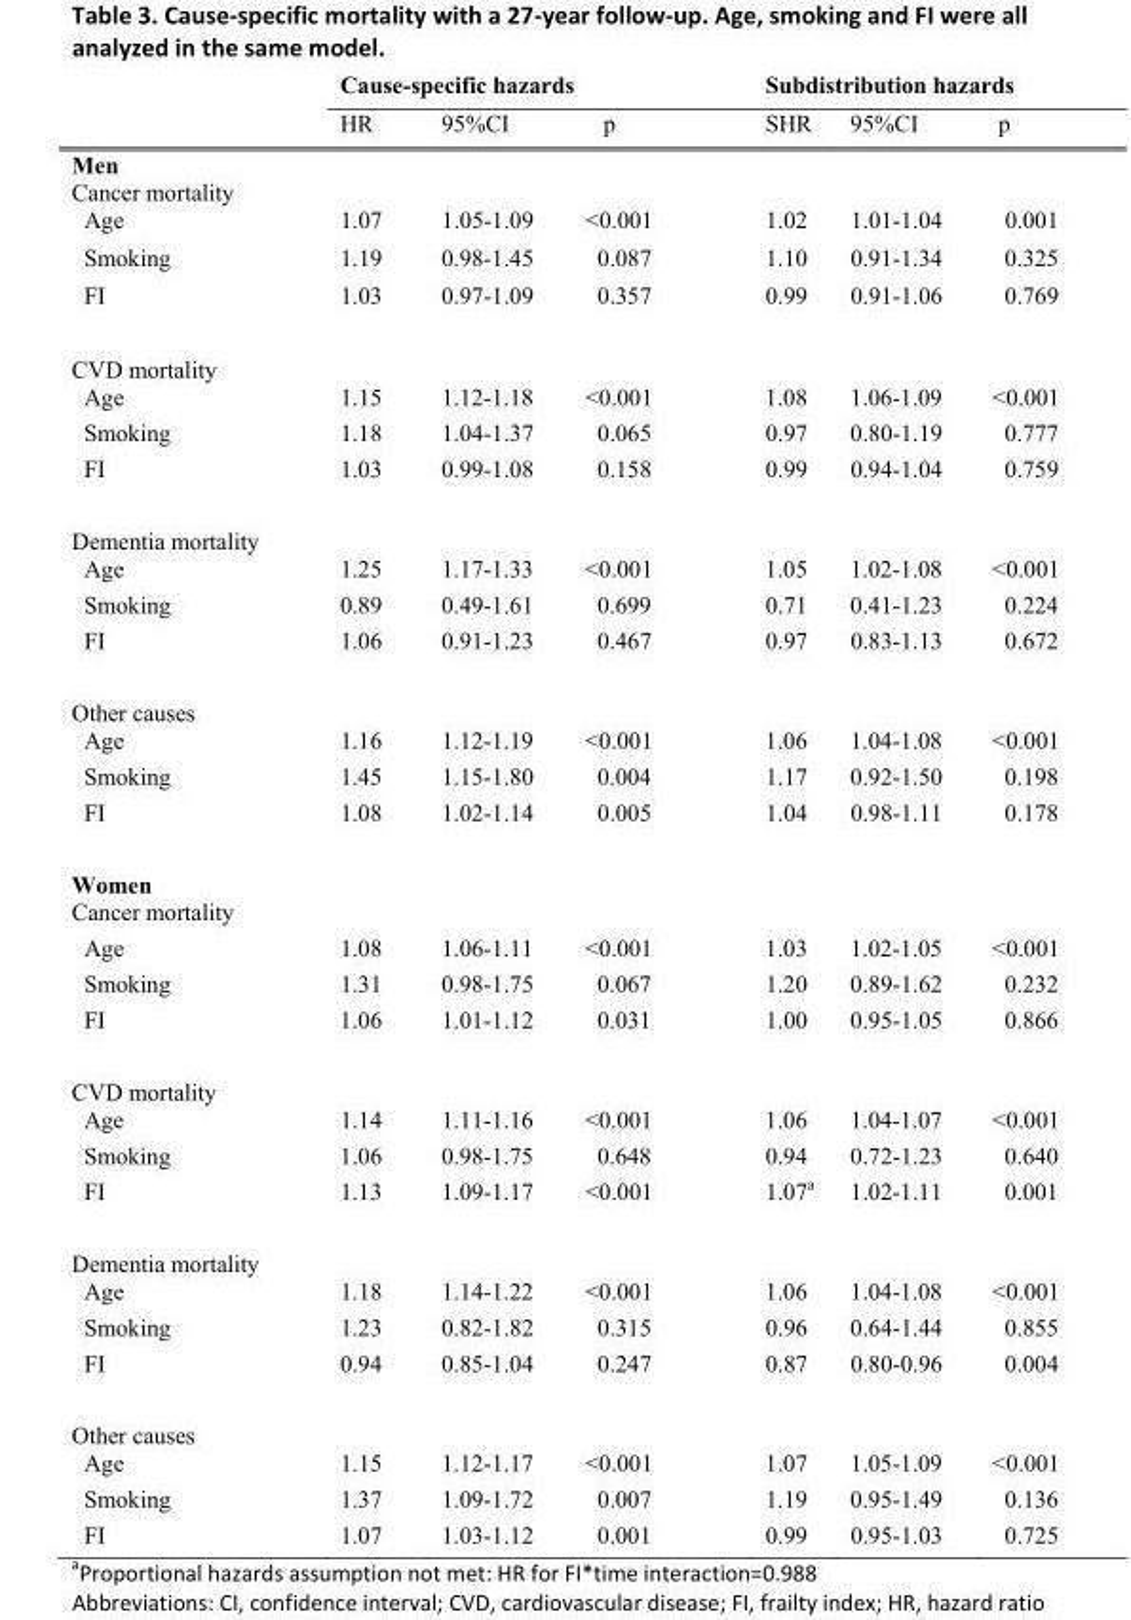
<table><thead><tr><td rowspan="2"></td><td colspan="3">Cause-specific hazards</td><td colspan="3">Subdistribution hazards</td></tr><tr><td>HR</td><td>95%CI</td><td>p</td><td>SHR</td><td>95%CI</td><td>p</td></tr></thead><tbody><tr><td colspan="7">Men</td></tr><tr><td colspan="7">Cancer mortality</td></tr><tr><td>Age</td><td>1.07</td><td>1.05-1.09</td><td>&lt;0.001</td><td>1.02</td><td>1.01-1.04</td><td>0.001</td></tr><tr><td>Smoking</td><td>1.19</td><td>0.98-1.45</td><td>0.087</td><td>1.10</td><td>0.91-1.34</td><td>0.325</td></tr><tr><td>FI</td><td>1.03</td><td>0.97-1.09</td><td>0.357</td><td>0.99</td><td>0.91-1.06</td><td>0.769</td></tr><tr><td colspan="7">CVD mortality</td></tr><tr><td>Age</td><td>1.15</td><td>1.12-1.18</td><td>&lt;0.001</td><td>1.08</td><td>1.06-1.09</td><td>&lt;0.001</td></tr><tr><td>Smoking</td><td>1.18</td><td>1.04-1.37</td><td>0.065</td><td>0.97</td><td>0.80-1.19</td><td>0.777</td></tr><tr><td>FI</td><td>1.03</td><td>0.99-1.08</td><td>0.158</td><td>0.99</td><td>0.94-1.04</td><td>0.759</td></tr><tr><td colspan="7">Dementia mortality</td></tr><tr><td>Age</td><td>1.25</td><td>1.17-1.33</td><td>&lt;0.001</td><td>1.05</td><td>1.02-1.08</td><td>&lt;0.001</td></tr><tr><td>Smoking</td><td>0.89</td><td>0.49-1.61</td><td>0.699</td><td>0.71</td><td>0.41-1.23</td><td>0.224</td></tr><tr><td>FI</td><td>1.06</td><td>0.91-1.23</td><td>0.467</td><td>0.97</td><td>0.83-1.13</td><td>0.672</td></tr><tr><td colspan="7">Other causes</td></tr><tr><td>Age</td><td>1.16</td><td>1.12-1.19</td><td>&lt;0.001</td><td>1.06</td><td>1.04-1.08</td><td>&lt;0.001</td></tr><tr><td>Smoking</td><td>1.45</td><td>1.15-1.80</td><td>0.004</td><td>1.17</td><td>0.92-1.50</td><td>0.198</td></tr><tr><td>FI</td><td>1.08</td><td>1.02-1.14</td><td>0.005</td><td>1.04</td><td>0.98-1.11</td><td>0.178</td></tr><tr><td colspan="7">Women</td></tr><tr><td colspan="7">Cancer mortality</td></tr><tr><td>Age</td><td>1.08</td><td>1.06-1.11</td><td>&lt;0.001</td><td>1.03</td><td>1.02-1.05</td><td>&lt;0.001</td></tr><tr><td>Smoking</td><td>1.31</td><td>0.98-1.75</td><td>0.067</td><td>1.20</td><td>0.89-1.62</td><td>0.232</td></tr><tr><td>FI</td><td>1.06</td><td>1.01-1.12</td><td>0.031</td><td>1.00</td><td>0.95-1.05</td><td>0.866</td></tr><tr><td colspan="7">CVD mortality</td></tr><tr><td>Age</td><td>1.14</td><td>1.11-1.16</td><td>&lt;0.001</td><td>1.06</td><td>1.04-1.07</td><td>&lt;0.001</td></tr><tr><td>Smoking</td><td>1.06</td><td>0.98-1.75</td><td>0.648</td><td>0.94</td><td>0.72-1.23</td><td>0.640</td></tr><tr><td>FI</td><td>1.13</td><td>1.09-1.17</td><td>&lt;0.001</td><td>1.07<sup>a</sup></td><td>1.02-1.11</td><td>0.001</td></tr><tr><td colspan="7">Dementia mortality</td></tr><tr><td>Age</td><td>1.18</td><td>1.14-1.22</td><td>&lt;0.001</td><td>1.06</td><td>1.04-1.08</td><td>&lt;0.001</td></tr><tr><td>Smoking</td><td>1.23</td><td>0.82-1.82</td><td>0.315</td><td>0.96</td><td>0.64-1.44</td><td>0.855</td></tr><tr><td>FI</td><td>0.94</td><td>0.85-1.04</td><td>0.247</td><td>0.87</td><td>0.80-0.96</td><td>0.004</td></tr><tr><td colspan="7">Other causes</td></tr><tr><td>Age</td><td>1.15</td><td>1.12-1.17</td><td>&lt;0.001</td><td>1.07</td><td>1.05-1.09</td><td>&lt;0.001</td></tr><tr><td>Smoking</td><td>1.37</td><td>1.09-1.72</td><td>0.007</td><td>1.19</td><td>0.95-1.49</td><td>0.136</td></tr><tr><td>FI</td><td>1.07</td><td>1.03-1.12</td><td>0.001</td><td>0.99</td><td>0.95-1.03</td><td>0.725</td></tr></tbody></table>